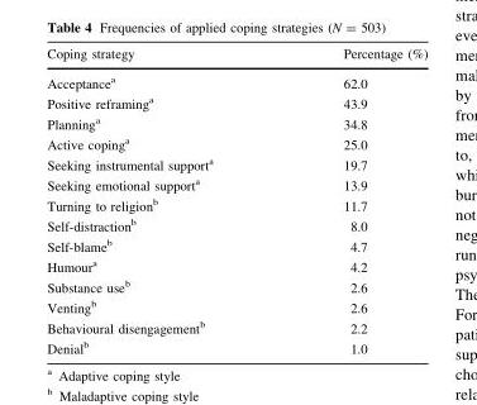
<table><thead><tr><td>Coping strategy</td><td>Percentage (%)</td></tr></thead><tbody><tr><td>Acceptance<sup>a</sup></td><td>62.0</td></tr><tr><td>Positive reframing<sup>a</sup></td><td>43.9</td></tr><tr><td>Planning<sup>a</sup></td><td>34.8</td></tr><tr><td>Active coping<sup>a</sup></td><td>25.0</td></tr><tr><td>Seeking instrumental support<sup>a</sup></td><td>19.7</td></tr><tr><td>Seeking emotional support<sup>a</sup></td><td>13.9</td></tr><tr><td>Turning to religion<sup>b</sup></td><td>11.7</td></tr><tr><td>Self-distraction<sup>b</sup></td><td>8.0</td></tr><tr><td>Self-blame<sup>b</sup></td><td>4.7</td></tr><tr><td>Humour<sup>a</sup></td><td>4.2</td></tr><tr><td>Substance use<sup>b</sup></td><td>2.6</td></tr><tr><td>Venting<sup>b</sup></td><td>2.6</td></tr><tr><td>Behavioural disengagement<sup>b</sup></td><td>2.2</td></tr><tr><td>Denial<sup>b</sup></td><td>1.0</td></tr></tbody></table>